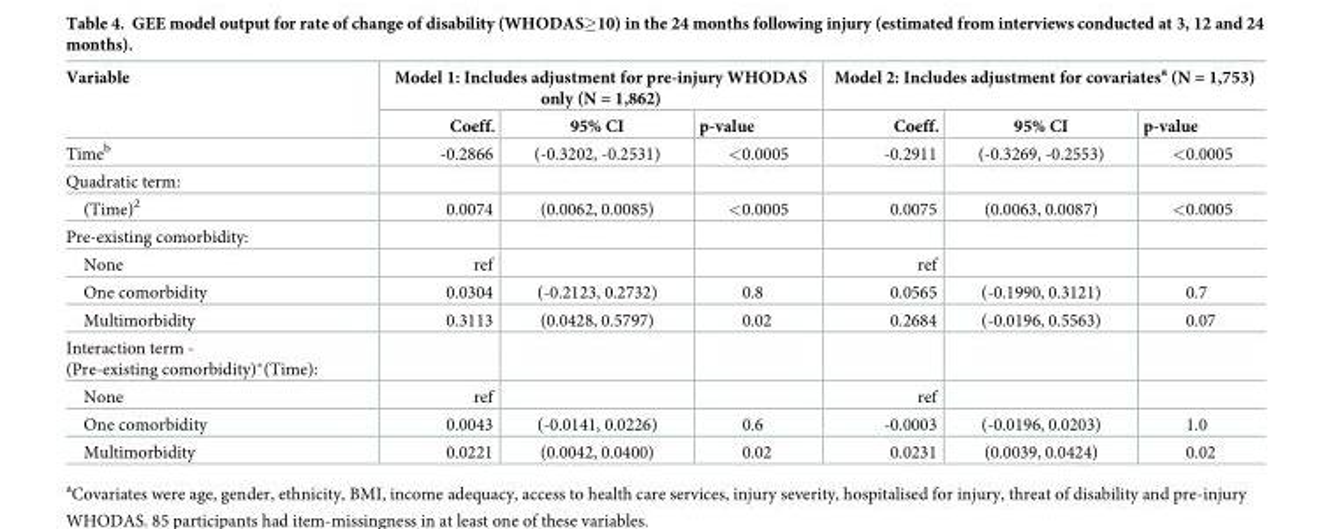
<table><thead><tr><td rowspan="2">Variable</td><td colspan="3">Model 1: Includes adjustment for pre-injury WHODAS only (N = 1,862)</td><td colspan="3">Model 2: Includes adjustment for covariates<sup>a</sup> (N = 1,753)</td></tr><tr><td>Coeff.</td><td>95% CI</td><td>p-value</td><td>Coeff.</td><td>95% CI</td><td>p-value</td></tr></thead><tbody><tr><td>Time<sup>b</sup></td><td>-0.2866</td><td>(-0.3202, -0.2531)</td><td>&lt;0.0005</td><td>-0.2911</td><td>(-0.3269, -0.2553)</td><td>&lt;0.0005</td></tr><tr><td colspan="7">Quadratic term:</td></tr><tr><td>(Time)<sup>2</sup></td><td>0.0074</td><td>(0.0062, 0.0085)</td><td>&lt;0.0005</td><td>0.0075</td><td>(0.0063, 0.0087)</td><td>&lt;0.0005</td></tr><tr><td colspan="7">Pre-existing comorbidity:</td></tr><tr><td>None</td><td>ref</td><td></td><td></td><td>ref</td><td></td><td></td></tr><tr><td>One comorbidity</td><td>0.0304</td><td>(-0.2123, 0.2732)</td><td>0.8</td><td>0.0565</td><td>(-0.1990, 0.3121)</td><td>0.7</td></tr><tr><td>Multimorbidity</td><td>0.3113</td><td>(0.0428, 0.5797)</td><td>0.02</td><td>0.2684</td><td>(-0.0196, 0.5563)</td><td>0.07</td></tr><tr><td colspan="7">Interaction term - (Pre-existing comorbidity)*(Time):</td></tr><tr><td>None</td><td>ref</td><td></td><td></td><td>ref</td><td></td><td></td></tr><tr><td>One comorbidity</td><td>0.0043</td><td>(-0.0141, 0.0226)</td><td>0.6</td><td>-0.0003</td><td>(-0.0196, 0.0203)</td><td>1.0</td></tr><tr><td>Multimorbidity</td><td>0.0221</td><td>(0.0042, 0.0400)</td><td>0.02</td><td>0.0231</td><td>(0.0039, 0.0424)</td><td>0.02</td></tr></tbody></table>